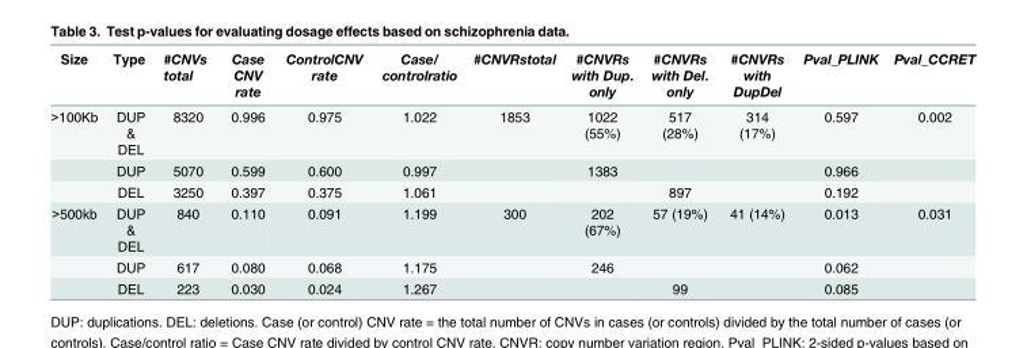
<table><thead><tr><td>Size</td><td>Type</td><td>#CNVs total</td><td>Case CNV rate</td><td>ControlCNV rate</td><td>Case/ controlratio</td><td>#CNVRstotal</td><td>#CNVRs with Dup. only</td><td>#CNVRs with Del. only</td><td>#CNVRs with DupDel</td><td>Pval_PLINK</td><td>Pval_CCRET</td></tr></thead><tbody><tr><td rowspan="3">&gt;100Kb</td><td>DUP &amp; DEL</td><td>8320</td><td>0.996</td><td>0.975</td><td>1.022</td><td>1853</td><td>1022 (55%)</td><td>517 (28%)</td><td>314 (17%)</td><td>0.597</td><td>0.002</td></tr><tr><td>DUP</td><td>5070</td><td>0.599</td><td>0.600</td><td>0.997</td><td></td><td>1383</td><td></td><td></td><td>0.966</td><td></td></tr><tr><td>DEL</td><td>3250</td><td>0.397</td><td>0.375</td><td>1.061</td><td></td><td></td><td>897</td><td></td><td>0.192</td><td></td></tr><tr><td rowspan="3">&gt;500kb</td><td>DUP &amp; DEL</td><td>840</td><td>0.110</td><td>0.091</td><td>1.199</td><td>300</td><td>202 (67%)</td><td>57 (19%)</td><td>41 (14%)</td><td>0.013</td><td>0.031</td></tr><tr><td>DUP</td><td>617</td><td>0.080</td><td>0.068</td><td>1.175</td><td></td><td>246</td><td></td><td></td><td>0.062</td><td></td></tr><tr><td>DEL</td><td>223</td><td>0.030</td><td>0.024</td><td>1.267</td><td></td><td></td><td>99</td><td></td><td>0.085</td><td></td></tr></tbody></table>